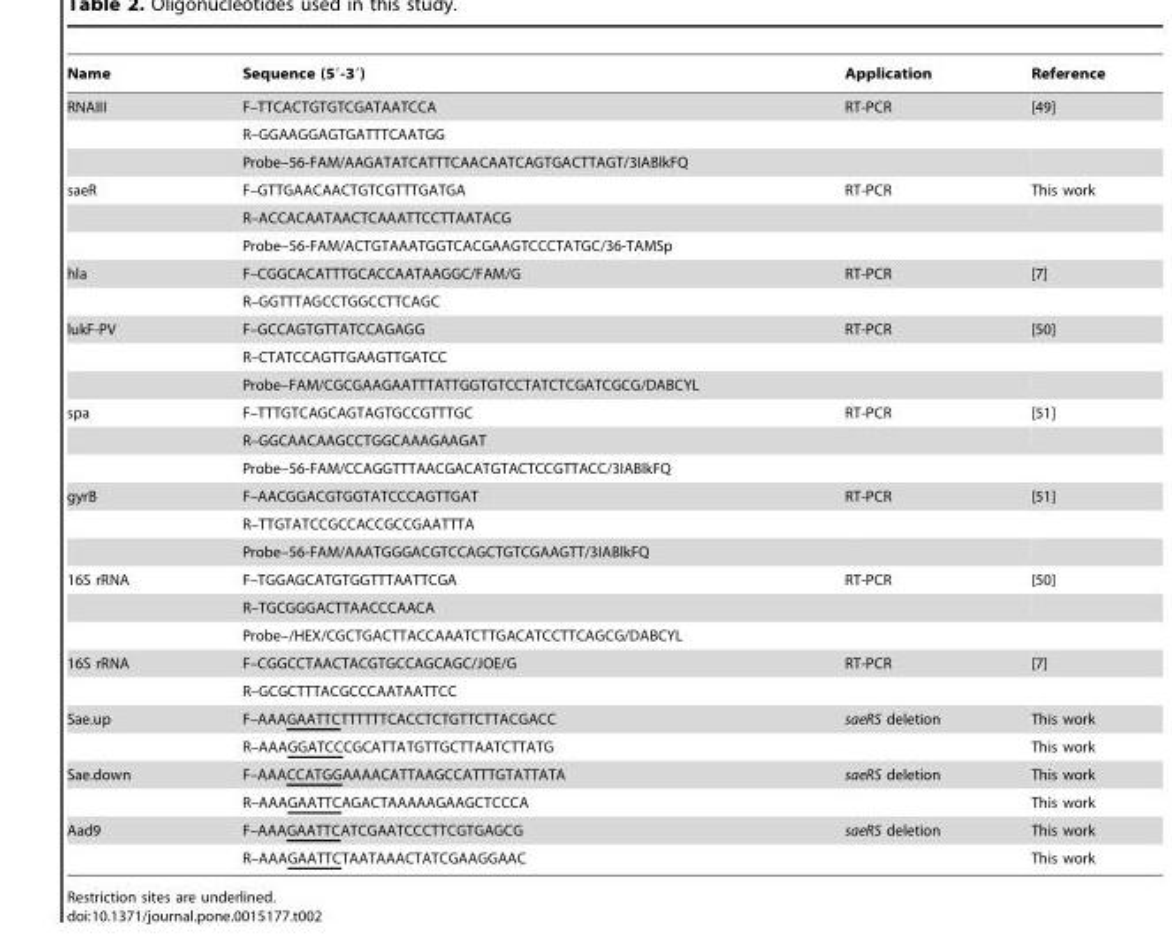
<table><thead><tr><td>Name</td><td>Sequence (5′-3′)</td><td>Application</td><td>Reference</td></tr></thead><tbody><tr><td rowspan="3">RNAIII</td><td>F–TTCACTGTGTCGATAATCCA</td><td>RT-PCR</td><td>[49]</td></tr><tr><td>R–GGAAGGAGTGATTTCAATGG</td><td></td><td></td></tr><tr><td>Probe–56-FAM/AAGATATCATTTCAACAATCAGTGACTTAGT/3IABlkFQ</td><td></td><td></td></tr><tr><td rowspan="3">saeR</td><td>F–GTTGAACAACTGTCGTTTGATGA</td><td>RT-PCR</td><td>This work</td></tr><tr><td>R–ACCACAATAACTCAAATTCCTTAATACG</td><td></td><td></td></tr><tr><td>Probe–56-FAM/ACTGTAAATGGTCACGAAGTCCCTATGC/36-TAMSp</td><td></td><td></td></tr><tr><td rowspan="2">hla</td><td>F–CGGCACATTTGCACCAATAAGGC/FAM/G</td><td>RT-PCR</td><td>[7]</td></tr><tr><td>R–GGTTTAGCCTGGCCTTCAGC</td><td></td><td></td></tr><tr><td rowspan="3">lukF-PV</td><td>F–GCCAGTGTTATCCAGAGG</td><td>RT-PCR</td><td>[50]</td></tr><tr><td>R–CTATCCAGTTGAAGTTGATCC</td><td></td><td></td></tr><tr><td>Probe–FAM/CGCGAAGAATTTATTGGTGTCCTATCTCGATCGCG/DABCYL</td><td></td><td></td></tr><tr><td rowspan="3">spa</td><td>F–TTTGTCAGCAGTAGTGCCGTTTGC</td><td>RT-PCR</td><td>[51]</td></tr><tr><td>R–GGCAACAAGCCTGGCAAAGAAGAT</td><td></td><td></td></tr><tr><td>Probe–56-FAM/CCAGGTTTAACGACATGTACTCCGTTACC/3IABlkFQ</td><td></td><td></td></tr><tr><td rowspan="3">gyrB</td><td>F–AACGGACGTGGTATCCCAGTTGAT</td><td>RT-PCR</td><td>[51]</td></tr><tr><td>R–TTGTATCCGCCACCGCCGAATTTA</td><td></td><td></td></tr><tr><td>Probe–56-FAM/AAATGGGACGTCCAGCTGTCGAAGTT/3IABlkFQ</td><td></td><td></td></tr><tr><td rowspan="3">16S rRNA</td><td>F–TGGAGCATGTGGTTTAATTCGA</td><td>RT-PCR</td><td>[50]</td></tr><tr><td>R–TGCGGGACTTAACCCAACA</td><td></td><td></td></tr><tr><td>Probe–/HEX/CGCTGACTTACCAAATCTTGACATCCTTCAGCG/DABCYL</td><td></td><td></td></tr><tr><td rowspan="2">16S rRNA</td><td>F–CGGCCTAACTACGTGCCAGCAGC/JOE/G</td><td>RT-PCR</td><td>[7]</td></tr><tr><td>R–GCGCTTTACGCCCAATAATTCC</td><td></td><td></td></tr><tr><td rowspan="2">Sae.up</td><td>F–AAAGAATTCTTTTTTCACCTCTGTTCTTACGACC</td><td>saeRS deletion</td><td>This work</td></tr><tr><td>R–AAAGGATCCCGCATTATGTTGCTTAATCTTATG</td><td></td><td>This work</td></tr><tr><td rowspan="2">Sae.down</td><td>F–AAACCATGGAAAACATTAAGCCATTTGTATTATA</td><td>saeRS deletion</td><td>This work</td></tr><tr><td>R–AAAGAATTCAGACTAAAAAGAAGCTCCCA</td><td></td><td>This work</td></tr><tr><td rowspan="2">Aad9</td><td>F–AAAGAATTCATCGAATCCCTTCGTGAGCG</td><td>saeRS deletion</td><td>This work</td></tr><tr><td>R–AAAGAATTCTAATAAACTATCGAAGGAAC</td><td></td><td>This work</td></tr></tbody></table>